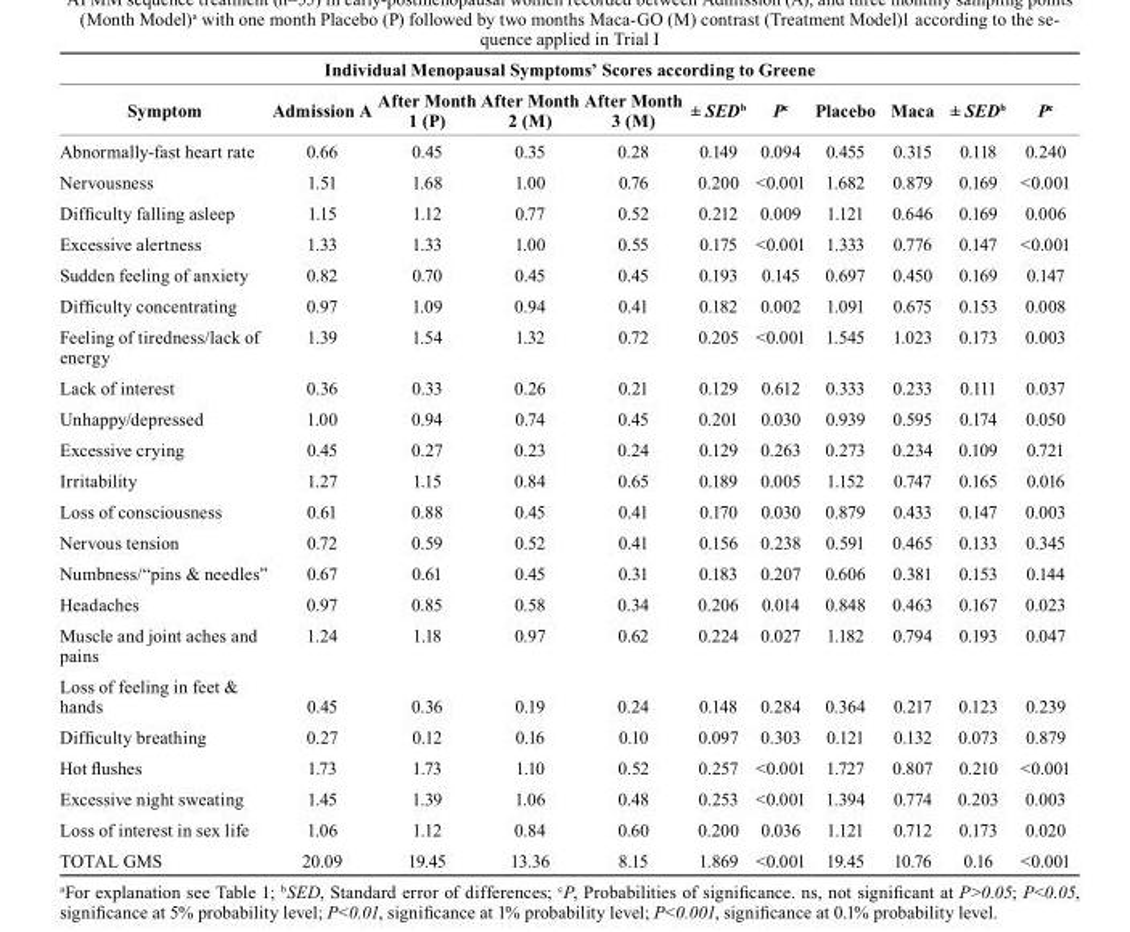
<table><thead><tr><td colspan="11">Individual Menopausal Symptoms’ Scores according to Greene</td></tr><tr><td>symptom</td><td>Admission A</td><td>After Month 1 (P)</td><td>After Month 2 (M)</td><td>After Month 3 (M)</td><td>± SED<sup>b</sup></td><td>P<sup>c</sup></td><td>Placebo</td><td>Maca</td><td>± SED<sup>b</sup></td><td>P<sup>c</sup></td></tr></thead><tbody><tr><td>Abnormally-fast heart rate</td><td>0.66</td><td>0.45</td><td>0.35</td><td>0.28</td><td>0.149</td><td>0.094</td><td>0.455</td><td>0.315</td><td>0.118</td><td>0.240</td></tr><tr><td>Nervousness</td><td>1.51</td><td>1.68</td><td>1.00</td><td>0.76</td><td>0.200</td><td>&lt;0.001</td><td>1.682</td><td>0.879</td><td>0.169</td><td>&lt;0.001</td></tr><tr><td>Difficulty falling asleep</td><td>1.15</td><td>1.12</td><td>0.77</td><td>0.52</td><td>0.212</td><td>0.009</td><td>1.121</td><td>0.646</td><td>0.169</td><td>0.006</td></tr><tr><td>Excessive alertness</td><td>1.33</td><td>1.33</td><td>1.00</td><td>0.55</td><td>0.175</td><td>&lt;0.001</td><td>1.333</td><td>0.776</td><td>0.147</td><td>&lt;0.001</td></tr><tr><td>Sudden feeling of anxiety</td><td>0.82</td><td>0.70</td><td>0.45</td><td>0.45</td><td>0.193</td><td>0.145</td><td>0.697</td><td>0.450</td><td>0.169</td><td>0.147</td></tr><tr><td>Difficulty concentrating</td><td>0.97</td><td>1.09</td><td>0.94</td><td>0.41</td><td>0.182</td><td>0.002</td><td>1.091</td><td>0.675</td><td>0.153</td><td>0.008</td></tr><tr><td>Feeling of tiredness/lack of energy</td><td>1.39</td><td>1.54</td><td>1.32</td><td>0.72</td><td>0.205</td><td>&lt;0.001</td><td>1.545</td><td>1.023</td><td>0.173</td><td>0.003</td></tr><tr><td>Lack of interest</td><td>0.36</td><td>0.33</td><td>0.26</td><td>0.21</td><td>0.129</td><td>0.612</td><td>0.333</td><td>0.233</td><td>0.111</td><td>0.037</td></tr><tr><td>Unhappy/depressed</td><td>1.00</td><td>0.94</td><td>0.74</td><td>0.45</td><td>0.201</td><td>0.030</td><td>0.939</td><td>0.595</td><td>0.174</td><td>0.050</td></tr><tr><td>Excessive crying</td><td>0.45</td><td>0.27</td><td>0.23</td><td>0.24</td><td>0.129</td><td>0.263</td><td>0.273</td><td>0.234</td><td>0.109</td><td>0.721</td></tr><tr><td>Irritability</td><td>1.27</td><td>1.15</td><td>0.84</td><td>0.65</td><td>0.189</td><td>0.005</td><td>1.152</td><td>0.747</td><td>0.165</td><td>0.016</td></tr><tr><td>Loss of consciousness</td><td>0.61</td><td>0.88</td><td>0.45</td><td>0.41</td><td>0.170</td><td>0.030</td><td>0.879</td><td>0.433</td><td>0.147</td><td>0.003</td></tr><tr><td>Nervous tension</td><td>0.72</td><td>0.59</td><td>0.52</td><td>0.41</td><td>0.156</td><td>0.238</td><td>0.591</td><td>0.465</td><td>0.133</td><td>0.345</td></tr><tr><td>Numbness/“pins &amp; needles”</td><td>0.67</td><td>0.61</td><td>0.45</td><td>0.31</td><td>0.183</td><td>0.207</td><td>0.606</td><td>0.381</td><td>0.153</td><td>0.144</td></tr><tr><td>Headaches</td><td>0.97</td><td>0.85</td><td>0.58</td><td>0.34</td><td>0.206</td><td>0.014</td><td>0.848</td><td>0.463</td><td>0.167</td><td>0.023</td></tr><tr><td>Muscle and joint aches and pains</td><td>1.24</td><td>1.18</td><td>0.97</td><td>0.62</td><td>0.224</td><td>0.027</td><td>1.182</td><td>0.794</td><td>0.193</td><td>0.047</td></tr><tr><td>Loss of feeling in feet &amp; hands</td><td>0.45</td><td>0.36</td><td>0.19</td><td>0.24</td><td>0.148</td><td>0.284</td><td>0.364</td><td>0.217</td><td>0.123</td><td>0.239</td></tr><tr><td>Difficulty breathing</td><td>0.27</td><td>0.12</td><td>0.16</td><td>0.10</td><td>0.097</td><td>0.303</td><td>0.121</td><td>0.132</td><td>0.073</td><td>0.879</td></tr><tr><td>Hot flushes</td><td>1.73</td><td>1.73</td><td>1.10</td><td>0.52</td><td>0.257</td><td>&lt;0.001</td><td>1.727</td><td>0.807</td><td>0.210</td><td>&lt;0.001</td></tr><tr><td>Excessive night sweating</td><td>1.45</td><td>1.39</td><td>1.06</td><td>0.48</td><td>0.253</td><td>&lt;0.001</td><td>1.394</td><td>0.774</td><td>0.203</td><td>0.003</td></tr><tr><td>Loss of interest in sex life</td><td>1.06</td><td>1.12</td><td>0.84</td><td>0.60</td><td>0.200</td><td>0.036</td><td>1.121</td><td>0.712</td><td>0.173</td><td>0.020</td></tr><tr><td>TOTAL GMS</td><td>20.09</td><td>19.45</td><td>13.36</td><td>8.15</td><td>1.869</td><td>&lt;0.001</td><td>19.45</td><td>10.76</td><td>0.16</td><td>&lt;0.001</td></tr></tbody></table>